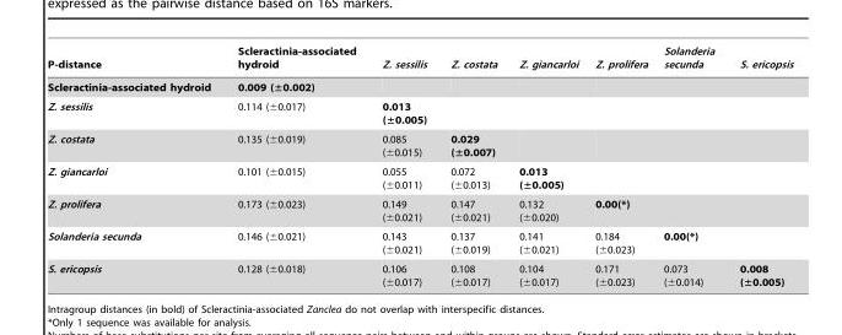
<table><thead><tr><td>P-distance</td><td>Scleractinia-associated hydroid</td><td>Z. sessilis</td><td>Z. costata</td><td>Z. giancarloi</td><td>Z. prolifera</td><td>Solanderia secunda</td><td>S. ericopsis</td></tr></thead><tbody><tr><td>Scleractinia-associated hydroid</td><td>0.009 (±0.002)</td><td></td><td></td><td></td><td></td><td></td><td></td></tr><tr><td>Z. sessilis</td><td>0.114 (±0.017)</td><td>0.013 (±0.005)</td><td></td><td></td><td></td><td></td><td></td></tr><tr><td>Z. costata</td><td>0.135 (±0.019)</td><td>0.085 (±0.015)</td><td>0.029 (±0.007)</td><td></td><td></td><td></td><td></td></tr><tr><td>Z. giancarloi</td><td>0.101 (±0.015)</td><td>0.055 (±0.011)</td><td>0.072 (±0.013)</td><td>0.013 (±0.005)</td><td></td><td></td><td></td></tr><tr><td>Z. prolifera</td><td>0.173 (±0.023)</td><td>0.149 (±0.021)</td><td>0.147 (±0.021)</td><td>0.132 (±0.020)</td><td>0.00(*)</td><td></td><td></td></tr><tr><td>Solanderia secunda</td><td>0.146 (±0.021)</td><td>0.143 (±0.021)</td><td>0.137 (±0.019)</td><td>0.141 (±0.021)</td><td>0.184 (±0.023)</td><td>0.00(*)</td><td></td></tr><tr><td>S. ericopsis</td><td>0.128 (±0.018)</td><td>0.106 (±0.017)</td><td>0.108 (±0.017)</td><td>0.104 (±0.017)</td><td>0.171 (±0.023)</td><td>0.073 (±0.014)</td><td>0.008 (±0.005)</td></tr></tbody></table>